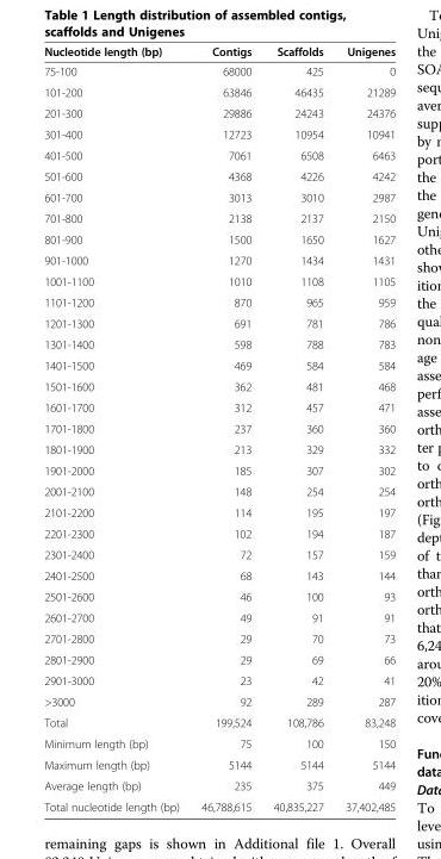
<table><thead><tr><td>Nucleotide length (bp)</td><td>Contigs</td><td>Scaffolds</td><td>Unigenes</td></tr></thead><tbody><tr><td>75-100</td><td>68000</td><td>425</td><td>0</td></tr><tr><td>101-200</td><td>63846</td><td>46435</td><td>21289</td></tr><tr><td>201-300</td><td>29886</td><td>24243</td><td>24376</td></tr><tr><td>301-400</td><td>12723</td><td>10954</td><td>10941</td></tr><tr><td>401-500</td><td>7061</td><td>6508</td><td>6463</td></tr><tr><td>501-600</td><td>4368</td><td>4226</td><td>4242</td></tr><tr><td>601-700</td><td>3013</td><td>3010</td><td>2987</td></tr><tr><td>701-800</td><td>2138</td><td>2137</td><td>2150</td></tr><tr><td>801-900</td><td>1500</td><td>1650</td><td>1627</td></tr><tr><td>901-1000</td><td>1270</td><td>1434</td><td>1431</td></tr><tr><td>1001-1100</td><td>1010</td><td>1108</td><td>1105</td></tr><tr><td>1101-1200</td><td>870</td><td>965</td><td>959</td></tr><tr><td>1201-1300</td><td>691</td><td>781</td><td>786</td></tr><tr><td>1301-1400</td><td>598</td><td>788</td><td>783</td></tr><tr><td>1401-1500</td><td>469</td><td>584</td><td>584</td></tr><tr><td>1501-1600</td><td>362</td><td>481</td><td>468</td></tr><tr><td>1601-1700</td><td>312</td><td>457</td><td>471</td></tr><tr><td>1701-1800</td><td>237</td><td>360</td><td>360</td></tr><tr><td>1801-1900</td><td>213</td><td>329</td><td>332</td></tr><tr><td>1901-2000</td><td>185</td><td>307</td><td>302</td></tr><tr><td>2001-2100</td><td>148</td><td>254</td><td>254</td></tr><tr><td>2101-2200</td><td>114</td><td>195</td><td>197</td></tr><tr><td>2201-2300</td><td>102</td><td>194</td><td>187</td></tr><tr><td>2301-2400</td><td>72</td><td>157</td><td>159</td></tr><tr><td>2401-2500</td><td>68</td><td>143</td><td>144</td></tr><tr><td>2501-2600</td><td>46</td><td>100</td><td>93</td></tr><tr><td>2601-2700</td><td>49</td><td>91</td><td>91</td></tr><tr><td>2701-2800</td><td>29</td><td>70</td><td>73</td></tr><tr><td>2801-2900</td><td>29</td><td>69</td><td>66</td></tr><tr><td>2901-3000</td><td>23</td><td>42</td><td>41</td></tr><tr><td>&gt;3000</td><td>92</td><td>289</td><td>287</td></tr><tr><td>Total</td><td>199,524</td><td>108,786</td><td>83,248</td></tr><tr><td>Minimum length (bp)</td><td>75</td><td>100</td><td>150</td></tr><tr><td>Maximum length (bp)</td><td>5144</td><td>5144</td><td>5144</td></tr><tr><td>Average length (bp)</td><td>235</td><td>375</td><td>449</td></tr><tr><td>Total nucleotide length (bp)</td><td>46,788,615</td><td>40,835,227</td><td>37,402,485</td></tr></tbody></table>